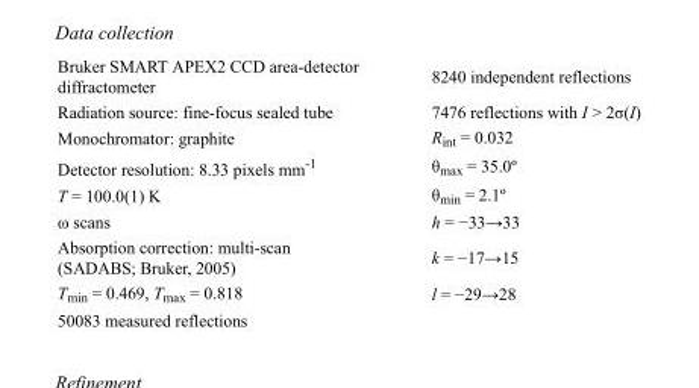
<table><tbody><tr><td>Bruker SMART APEX2 CCD area-detector diffractometer</td><td>8240 independent reflections</td></tr><tr><td>Radiation source: fine-focus sealed tube</td><td>7476 reflections with I &gt; 2σ(I)</td></tr><tr><td>Monochromator: graphite</td><td>R<sub>int</sub> = 0.032</td></tr><tr><td>Detector resolution: 8.33 pixels mm<sup>-1</sup></td><td>θ<sub>max</sub> = 35.0º</td></tr><tr><td>T = 100.0(1) K</td><td>θ<sub>min</sub> = 2.1º</td></tr><tr><td>ω scans</td><td>h = −33→33</td></tr><tr><td>Absorption correction: multi-scan (SADABS; Bruker, 2005)</td><td>k = −17→15</td></tr><tr><td>T<sub>min</sub> = 0.469, T<sub>max</sub> = 0.818</td><td>l = −29→28</td></tr><tr><td>50083 measured reflections</td><td></td></tr></tbody></table>